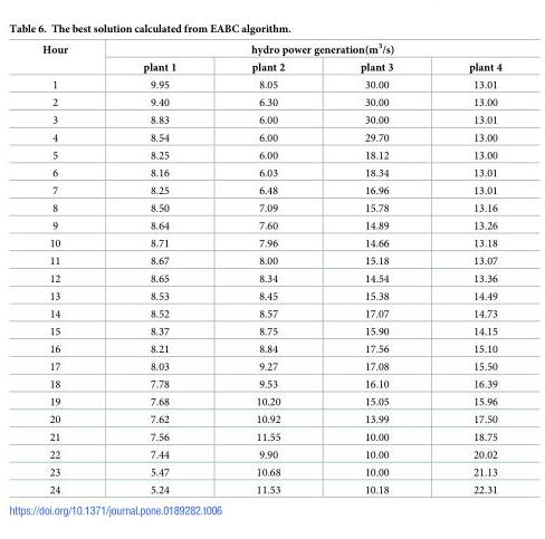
<table><thead><tr><td rowspan="2">Hour</td><td colspan="4">hydro power generation(m<sup>3</sup>/s)</td></tr><tr><td>plant 1</td><td>plant 2</td><td>plant 3</td><td>plant 4</td></tr></thead><tbody><tr><td>1</td><td>9.95</td><td>8.05</td><td>30.00</td><td>13.01</td></tr><tr><td>2</td><td>9.40</td><td>6.30</td><td>30.00</td><td>13.00</td></tr><tr><td>3</td><td>8.83</td><td>6.00</td><td>30.00</td><td>13.01</td></tr><tr><td>4</td><td>8.54</td><td>6.00</td><td>29.70</td><td>13.00</td></tr><tr><td>5</td><td>8.25</td><td>6.00</td><td>18.12</td><td>13.00</td></tr><tr><td>6</td><td>8.16</td><td>6.03</td><td>18.34</td><td>13.01</td></tr><tr><td>7</td><td>8.25</td><td>6.48</td><td>16.96</td><td>13.01</td></tr><tr><td>8</td><td>8.50</td><td>7.09</td><td>15.78</td><td>13.16</td></tr><tr><td>9</td><td>8.64</td><td>7.60</td><td>14.89</td><td>13.26</td></tr><tr><td>10</td><td>8.71</td><td>7.96</td><td>14.66</td><td>13.18</td></tr><tr><td>11</td><td>8.67</td><td>8.00</td><td>15.18</td><td>13.07</td></tr><tr><td>12</td><td>8.65</td><td>8.34</td><td>14.54</td><td>13.36</td></tr><tr><td>13</td><td>8.53</td><td>8.45</td><td>15.38</td><td>14.49</td></tr><tr><td>14</td><td>8.52</td><td>8.57</td><td>17.07</td><td>14.73</td></tr><tr><td>15</td><td>8.37</td><td>8.75</td><td>15.90</td><td>14.15</td></tr><tr><td>16</td><td>8.21</td><td>8.84</td><td>17.56</td><td>15.10</td></tr><tr><td>17</td><td>8.03</td><td>9.27</td><td>17.08</td><td>15.50</td></tr><tr><td>18</td><td>7.78</td><td>9.53</td><td>16.10</td><td>16.39</td></tr><tr><td>19</td><td>7.68</td><td>10.20</td><td>15.05</td><td>15.96</td></tr><tr><td>20</td><td>7.62</td><td>10.92</td><td>13.99</td><td>17.50</td></tr><tr><td>21</td><td>7.56</td><td>11.55</td><td>10.00</td><td>18.75</td></tr><tr><td>22</td><td>7.44</td><td>9.90</td><td>10.00</td><td>20.02</td></tr><tr><td>23</td><td>5.47</td><td>10.68</td><td>10.00</td><td>21.13</td></tr><tr><td>24</td><td>5.24</td><td>11.53</td><td>10.18</td><td>22.31</td></tr></tbody></table>